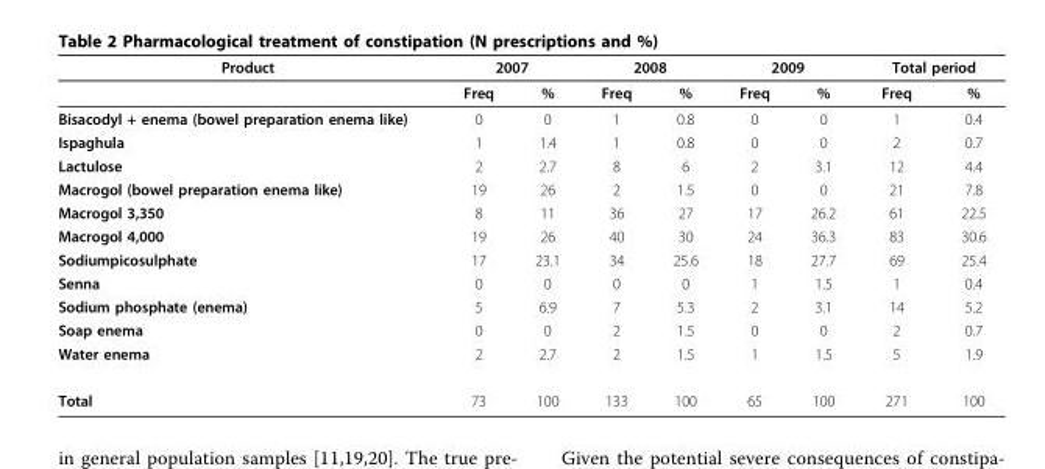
<table><thead><tr><td rowspan="2">Product</td><td colspan="2">2007</td><td colspan="2">2008</td><td colspan="2">2009</td><td colspan="2">Total period</td></tr><tr><td>Freq</td><td>%</td><td>Freq</td><td>%</td><td>Freq</td><td>%</td><td>Freq</td><td>%</td></tr></thead><tbody><tr><td>Bisacodyl + enema (bowel preparation enema like)</td><td>0</td><td>0</td><td>1</td><td>0.8</td><td>0</td><td>0</td><td>1</td><td>0.4</td></tr><tr><td>Ispaghula</td><td>1</td><td>1.4</td><td>1</td><td>0.8</td><td>0</td><td>0</td><td>2</td><td>0.7</td></tr><tr><td>Lactulose</td><td>2</td><td>2.7</td><td>8</td><td>6</td><td>2</td><td>3.1</td><td>12</td><td>4.4</td></tr><tr><td>Macrogol (bowel preparation enema like)</td><td>19</td><td>26</td><td>2</td><td>1.5</td><td>0</td><td>0</td><td>21</td><td>7.8</td></tr><tr><td>Macrogol 3,350</td><td>8</td><td>11</td><td>36</td><td>27</td><td>17</td><td>26.2</td><td>61</td><td>22.5</td></tr><tr><td>Macrogol 4,000</td><td>19</td><td>26</td><td>40</td><td>30</td><td>24</td><td>36.3</td><td>83</td><td>30.6</td></tr><tr><td>Sodiumpicosulphate</td><td>17</td><td>23.1</td><td>34</td><td>25.6</td><td>18</td><td>27.7</td><td>69</td><td>25.4</td></tr><tr><td>Senna</td><td>0</td><td>0</td><td>0</td><td>0</td><td>1</td><td>1.5</td><td>1</td><td>0.4</td></tr><tr><td>Sodium phosphate (enema)</td><td>5</td><td>6.9</td><td>7</td><td>5.3</td><td>2</td><td>3.1</td><td>14</td><td>5.2</td></tr><tr><td>Soap enema</td><td>0</td><td>0</td><td>2</td><td>1.5</td><td>0</td><td>0</td><td>2</td><td>0.7</td></tr><tr><td>Water enema</td><td>2</td><td>2.7</td><td>2</td><td>1.5</td><td>1</td><td>1.5</td><td>5</td><td>1.9</td></tr><tr><td>Total</td><td>73</td><td>100</td><td>133</td><td>100</td><td>65</td><td>100</td><td>271</td><td>100</td></tr></tbody></table>